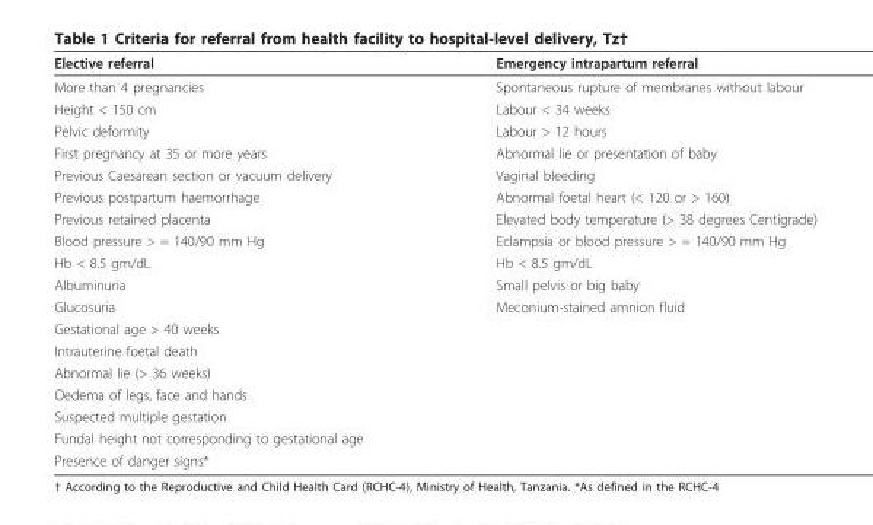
<table><tbody><tr><td>Elective referral</td><td>Emergency intrapartum referral</td></tr><tr><td>More than 4 pregnancies</td><td>Spontaneous rupture of membranes without labour</td></tr><tr><td>Height &lt; 150 cm</td><td>Labour &lt; 34 weeks</td></tr><tr><td>Pelvic deformity</td><td>Labour &gt; 12 hours</td></tr><tr><td>First pregnancy at 35 or more years</td><td>Abnormal lie or presentation of baby</td></tr><tr><td>Previous Caesarean section or vacuum delivery</td><td>Vaginal bleeding</td></tr><tr><td>Previous postpartum haemorrhage</td><td>Abnormal foetal heart (&lt; 120 or &gt; 160)</td></tr><tr><td>Previous retained placenta</td><td>Elevated body temperature (&gt; 38 degrees Centigrade)</td></tr><tr><td>Blood pressure &gt; = 140/90 mm Hg</td><td>Eclampsia or blood pressure &gt; = 140/90 mm Hg</td></tr><tr><td>Hb &lt; 8.5 gm/dL</td><td>Hb &lt; 8.5 gm/dL</td></tr><tr><td>Albuminuria</td><td>Small pelvis or big baby</td></tr><tr><td>Glucosuria</td><td>Meconium-stained amnion fluid</td></tr><tr><td colspan="2">Gestational age &gt; 40 weeks</td></tr><tr><td colspan="2">Intrauterine foetal death</td></tr><tr><td colspan="2">Abnormal lie (&gt; 36 weeks)</td></tr><tr><td colspan="2">Oedema of legs, face and hands</td></tr><tr><td colspan="2">Suspected multiple gestation</td></tr><tr><td colspan="2">Fundal height not corresponding to gestational age</td></tr><tr><td>Presence of danger signs*</td><td></td></tr></tbody></table>